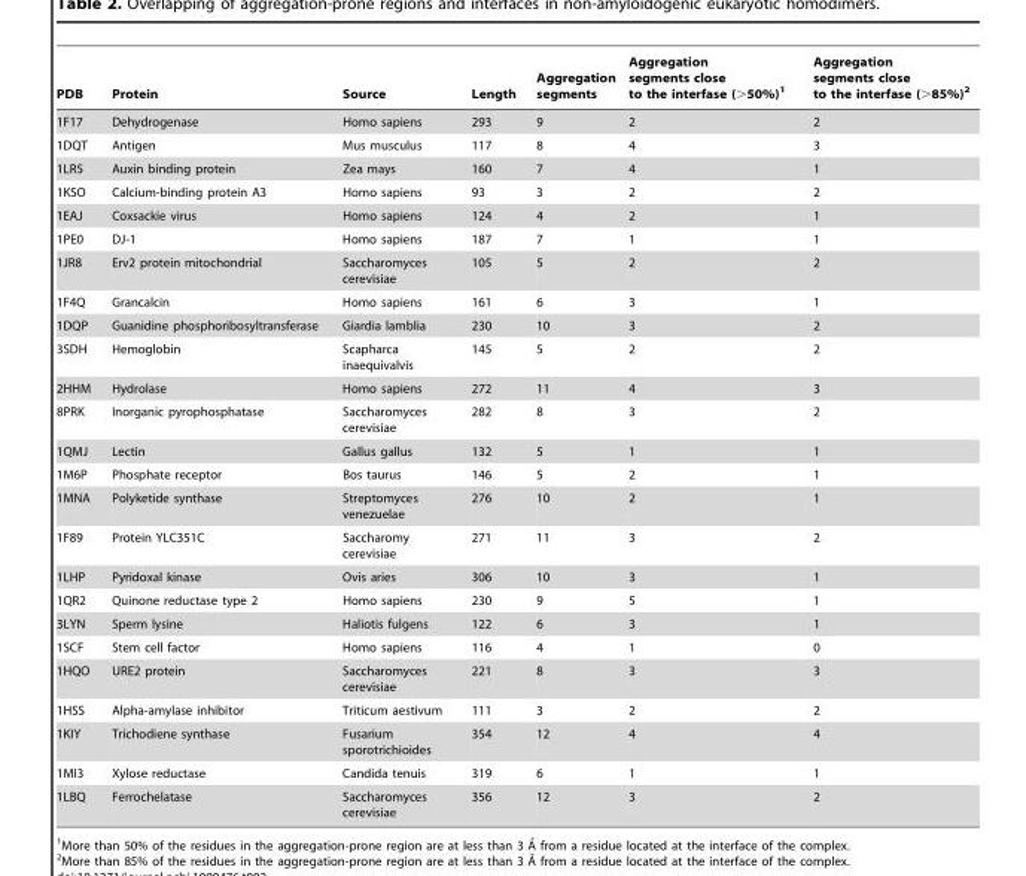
<table><thead><tr><td>PDB</td><td>Protein</td><td>Source</td><td>Length</td><td>Aggregation segments</td><td>Aggregation segments close to the interfase (&gt;50%)<sup>1</sup></td><td>Aggregation segments close to the interfase (&gt;85%)<sup>2</sup></td></tr></thead><tbody><tr><td>1F17</td><td>Dehydrogenase</td><td>Homo sapiens</td><td>293</td><td>9</td><td>2</td><td>2</td></tr><tr><td>1DQT</td><td>Antigen</td><td>Mus musculus</td><td>117</td><td>8</td><td>4</td><td>3</td></tr><tr><td>1LR5</td><td>Auxin binding protein</td><td>Zea mays</td><td>160</td><td>7</td><td>4</td><td>1</td></tr><tr><td>1KSO</td><td>Calcium-binding protein A3</td><td>Homo sapiens</td><td>93</td><td>3</td><td>2</td><td>2</td></tr><tr><td>1EAJ</td><td>Coxsackie virus</td><td>Homo sapiens</td><td>124</td><td>4</td><td>2</td><td>1</td></tr><tr><td>1PE0</td><td>DJ-1</td><td>Homo sapiens</td><td>187</td><td>7</td><td>1</td><td>1</td></tr><tr><td>1JR8</td><td>Erv2 protein mitochondrial</td><td>Saccharomyces cerevisiae</td><td>105</td><td>5</td><td>2</td><td>2</td></tr><tr><td>1F4Q</td><td>Grancalcin</td><td>Homo sapiens</td><td>161</td><td>6</td><td>3</td><td>1</td></tr><tr><td>1DQP</td><td>Guanidine phosphoribosyltransferase</td><td>Giardia lamblia</td><td>230</td><td>10</td><td>3</td><td>2</td></tr><tr><td>3SDH</td><td>Hemoglobin</td><td>Scapharca inaequivalvis</td><td>145</td><td>5</td><td>2</td><td>2</td></tr><tr><td>2HHM</td><td>Hydrolase</td><td>Homo sapiens</td><td>272</td><td>11</td><td>4</td><td>3</td></tr><tr><td>8PRK</td><td>Inorganic pyrophosphatase</td><td>Saccharomyces cerevisiae</td><td>282</td><td>8</td><td>3</td><td>2</td></tr><tr><td>1QMJ</td><td>Lectin</td><td>Gallus gallus</td><td>132</td><td>5</td><td>1</td><td>1</td></tr><tr><td>1M6P</td><td>Phosphate receptor</td><td>Bos taurus</td><td>146</td><td>5</td><td>2</td><td>1</td></tr><tr><td>1MNA</td><td>Polyketide synthase</td><td>Streptomyces venezuelae</td><td>276</td><td>10</td><td>2</td><td>1</td></tr><tr><td>1F89</td><td>Protein YLC351C</td><td>Saccharomy cerevisiae</td><td>271</td><td>11</td><td>3</td><td>2</td></tr><tr><td>1LHP</td><td>Pyridoxal kinase</td><td>Ovis aries</td><td>306</td><td>10</td><td>3</td><td>1</td></tr><tr><td>1QR2</td><td>Quinone reductase type 2</td><td>Homo sapiens</td><td>230</td><td>9</td><td>5</td><td>1</td></tr><tr><td>3LYN</td><td>Sperm lysine</td><td>Haliotis fulgens</td><td>122</td><td>6</td><td>3</td><td>1</td></tr><tr><td>1SCF</td><td>Stem cell factor</td><td>Homo sapiens</td><td>116</td><td>4</td><td>1</td><td>0</td></tr><tr><td>1HQO</td><td>URE2 protein</td><td>Saccharomyces cerevisiae</td><td>221</td><td>8</td><td>3</td><td>3</td></tr><tr><td>1HSS</td><td>Alpha-amylase inhibitor</td><td>Triticum aestivum</td><td>111</td><td>3</td><td>2</td><td>2</td></tr><tr><td>1KIY</td><td>Trichodiene synthase</td><td>Fusarium sporotrichioides</td><td>354</td><td>12</td><td>4</td><td>4</td></tr><tr><td>1MI3</td><td>Xylose reductase</td><td>Candida tenuis</td><td>319</td><td>6</td><td>1</td><td>1</td></tr><tr><td>1LBQ</td><td>Ferrochelatase</td><td>Saccharomyces cerevisiae</td><td>356</td><td>12</td><td>3</td><td>2</td></tr></tbody></table>